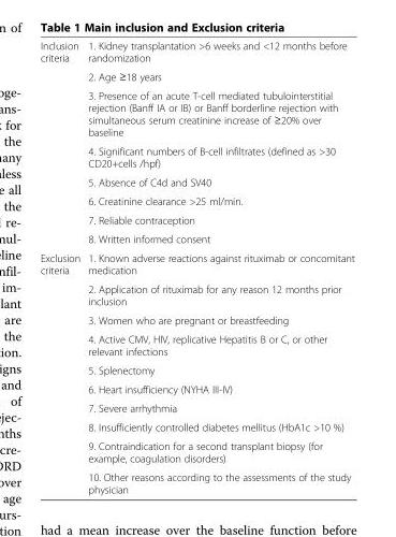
<table><tbody><tr><td rowspan="8">Inclusion criteria</td><td>1. Kidney transplantation &gt;6 weeks and &lt;12 months before randomization</td></tr><tr><td>2. Age ≥18 years</td></tr><tr><td>3. Presence of an acute T-cell mediated tubulointerstitial rejection (Banff IA or IB) or Banff borderline rejection with simultaneous serum creatinine increase of ≥20% over baseline</td></tr><tr><td>4. Significant numbers of B-cell infiltrates (defined as &gt;30 CD20+cells /hpf)</td></tr><tr><td>5. Absence of C4d and SV40</td></tr><tr><td>6. Creatinine clearance &gt;25 ml/min.</td></tr><tr><td>7. Reliable contraception</td></tr><tr><td>8. Written informed consent</td></tr><tr><td rowspan="10">Exclusion criteria</td><td>1. Known adverse reactions against rituximab or concomitant medication</td></tr><tr><td>2. Application of rituximab for any reason 12 months prior inclusion</td></tr><tr><td>3. Women who are pregnant or breastfeeding</td></tr><tr><td>4. Active CMV, HIV, replicative Hepatitis B or C, or other relevant infections</td></tr><tr><td>5. Splenectomy</td></tr><tr><td>6. Heart insufficiency (NYHA III-IV)</td></tr><tr><td>7. Severe arrhythmia</td></tr><tr><td>8. Insufficiently controlled diabetes mellitus (HbA1c &gt;10 %)</td></tr><tr><td>9. Contraindication for a second transplant biopsy (for example, coagulation disorders)</td></tr><tr><td>10. Other reasons according to the assessments of the study physician</td></tr></tbody></table>